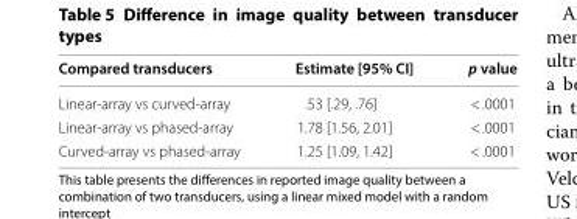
<table><thead><tr><td>Compared transducers</td><td>Estimate [95% CI]</td><td>p value</td></tr></thead><tbody><tr><td>Linear-array vs curved-array</td><td>.53 [.29, .76]</td><td>&lt; .0001</td></tr><tr><td>Linear-array vs phased-array</td><td>1.78 [1.56, 2.01]</td><td>&lt; .0001</td></tr><tr><td>Curved-array vs phased-array</td><td>1.25 [1.09, 1.42]</td><td>&lt; .0001</td></tr></tbody></table>